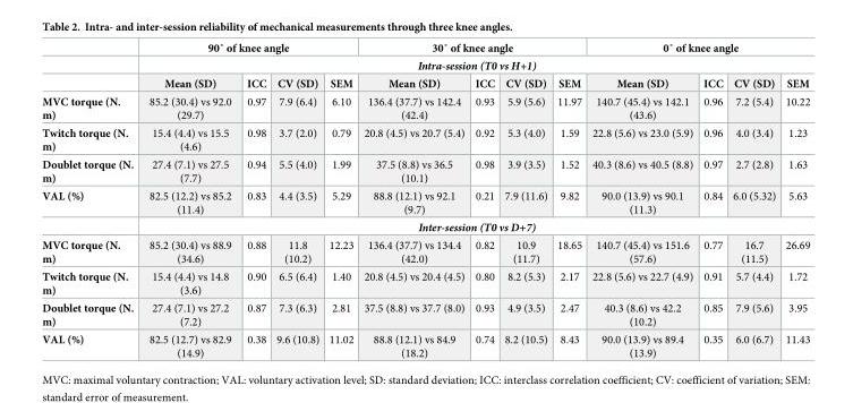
<table><thead><tr><td rowspan="3"></td><td colspan="4">90˚ of knee angle</td><td colspan="4">30˚ of knee angle</td><td colspan="4">0˚ of knee angle</td></tr><tr><td colspan="12">Intra-session (T0 vs H+1)</td></tr><tr><td>Mean (SD)</td><td>ICC</td><td>CV (SD)</td><td>SEM</td><td>Mean (SD)</td><td>ICC</td><td>CV (SD)</td><td>SEM</td><td>Mean (SD)</td><td>ICC</td><td>CV (SD)</td><td>SEM</td></tr></thead><tbody><tr><td>MVC torque (N. m)</td><td>85.2 (30.4) vs 92.0 (29.7)</td><td>0.97</td><td>7.9 (6.4)</td><td>6.10</td><td>136.4 (37.7) vs 142.4 (42.4)</td><td>0.93</td><td>5.9 (5.6)</td><td>11.97</td><td>140.7 (45.4) vs 142.1 (43.6)</td><td>0.96</td><td>7.2 (5.4)</td><td>10.22</td></tr><tr><td>Twitch torque (N. m)</td><td>15.4 (4.4) vs 15.5 (4.6)</td><td>0.98</td><td>3.7 (2.0)</td><td>0.79</td><td>20.8 (4.5) vs 20.7 (5.4)</td><td>0.92</td><td>5.3 (4.0)</td><td>1.59</td><td>22.8 (5.6) vs 23.0 (5.9)</td><td>0.96</td><td>4.0 (3.4)</td><td>1.23</td></tr><tr><td>Doublet torque (N. m)</td><td>27.4 (7.1) vs 27.5 (7.7)</td><td>0.94</td><td>5.5 (4.0)</td><td>1.99</td><td>37.5 (8.8) vs 36.5 (10.1)</td><td>0.98</td><td>3.9 (3.5)</td><td>1.52</td><td>40.3 (8.6) vs 40.5 (8.8)</td><td>0.97</td><td>2.7 (2.8)</td><td>1.63</td></tr><tr><td rowspan="2">VAL (%)</td><td>82.5 (12.2) vs 85.2 (11.4)</td><td>0.83</td><td>4.4 (3.5)</td><td>5.29</td><td>88.8 (12.1) vs 92.1 (9.7)</td><td>0.21</td><td>7.9 (11.6)</td><td>9.82</td><td>90.0 (13.9) vs 90.1 (11.3)</td><td>0.84</td><td>6.0 (5.32)</td><td>5.63</td></tr><tr><td colspan="12">Inter-session (T0 vs D+7)</td></tr><tr><td>MVC torque (N. m)</td><td>85.2 (30.4) vs 88.9 (34.6)</td><td>0.88</td><td>11.8 (10.2)</td><td>12.23</td><td>136.4 (37.7) vs 134.4 (42.0)</td><td>0.82</td><td>10.9 (11.7)</td><td>18.65</td><td>140.7 (45.4) vs 151.6 (57.6)</td><td>0.77</td><td>16.7 (11.5)</td><td>26.69</td></tr><tr><td>Twitch torque (N. m)</td><td>15.4 (4.4) vs 14.8 (3.6)</td><td>0.90</td><td>6.5 (6.4)</td><td>1.40</td><td>20.8 (4.5) vs 20.4 (4.5)</td><td>0.80</td><td>8.2 (5.3)</td><td>2.17</td><td>22.8 (5.6) vs 22.7 (4.9)</td><td>0.91</td><td>5.7 (4.4)</td><td>1.72</td></tr><tr><td>Doublet torque (N. m)</td><td>27.4 (7.1) vs 27.2 (7.2)</td><td>0.87</td><td>7.3 (6.3)</td><td>2.81</td><td>37.5 (8.8) vs 37.7 (8.0)</td><td>0.93</td><td>4.9 (3.5)</td><td>2.47</td><td>40.3 (8.6) vs 42.2 (10.2)</td><td>0.85</td><td>7.9 (5.6)</td><td>3.95</td></tr><tr><td>VAL (%)</td><td>82.5 (12.7) vs 82.9 (14.9)</td><td>0.38</td><td>9.6 (10.8)</td><td>11.02</td><td>88.8 (12.1) vs 84.9 (18.2)</td><td>0.74</td><td>8.2 (10.5)</td><td>8.43</td><td>90.0 (13.9) vs 89.4 (13.9)</td><td>0.35</td><td>6.0 (6.7)</td><td>11.43</td></tr></tbody></table>